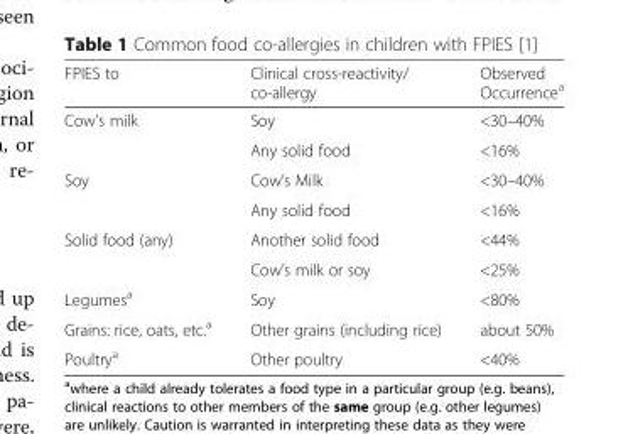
<table><thead><tr><td>FPIES to</td><td>Clinical cross-reactivity/ co-allergy</td><td>Observed Occurrence<sup>a</sup></td></tr></thead><tbody><tr><td rowspan="2">Cow’s milk</td><td>Soy</td><td>&lt;30–40%</td></tr><tr><td>Any solid food</td><td>&lt;16%</td></tr><tr><td rowspan="2">Soy</td><td>Cow’s Milk</td><td>&lt;30–40%</td></tr><tr><td>Any solid food</td><td>&lt;16%</td></tr><tr><td rowspan="2">Solid food (any)</td><td>Another solid food</td><td>&lt;44%</td></tr><tr><td>Cow’s milk or soy</td><td>&lt;25%</td></tr><tr><td>Legumes<sup>a</sup></td><td>Soy</td><td>&lt;80%</td></tr><tr><td>Grains: rice, oats, etc.<sup>a</sup></td><td>Other grains (including rice)</td><td>about 50%</td></tr><tr><td>Poultry<sup>a</sup></td><td>Other poultry</td><td>&lt;40%</td></tr></tbody></table>